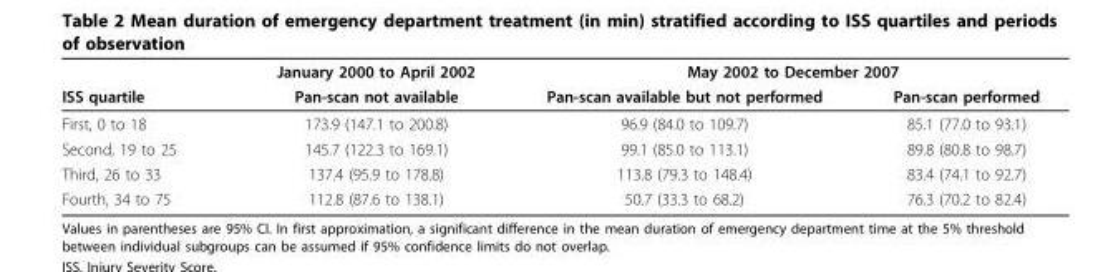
<table><thead><tr><td rowspan="2">ISS quartile</td><td rowspan="2">January 2000 to April 2002 Pan-scan not available</td><td colspan="2">May 2002 to December 2007</td></tr><tr><td>Pan-scan available but not performed</td><td>Pan-scan performed</td></tr></thead><tbody><tr><td>First, 0 to 18</td><td>173.9 (147.1 to 200.8)</td><td>96.9 (84.0 to 109.7)</td><td>85.1 (77.0 to 93.1)</td></tr><tr><td>Second, 19 to 25</td><td>145.7 (122.3 to 169.1)</td><td>99.1 (85.0 to 113.1)</td><td>89.8 (80.8 to 98.7)</td></tr><tr><td>Third, 26 to 33</td><td>137.4 (95.9 to 178.8)</td><td>113.8 (79.3 to 148.4)</td><td>83.4 (74.1 to 92.7)</td></tr><tr><td>Fourth, 34 to 75</td><td>112.8 (87.6 to 138.1)</td><td>50.7 (33.3 to 68.2)</td><td>76.3 (70.2 to 82.4)</td></tr></tbody></table>